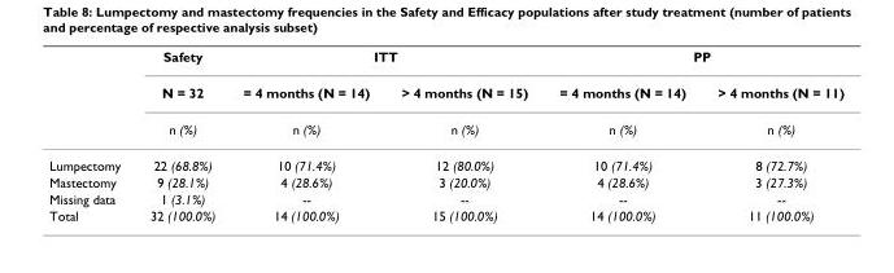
<table><thead><tr><td rowspan="3"></td><td rowspan="3">Safety N = 32 n (%)</td><td colspan="2">ITT</td><td colspan="2">PP</td></tr><tr><td rowspan="2">= 4 months (N = 14) n (%)</td><td rowspan="2">&gt; 4 months (N = 15) n (%)</td><td rowspan="2">= 4 months (N = 14) n (%)</td><td rowspan="2">&gt; 4 months (N = 11) n (%)</td></tr><tr></tr></thead><tbody><tr><td>Lumpectomy</td><td>22 (68.8%)</td><td>10 (71.4%)</td><td>12 (80.0%)</td><td>10 (71.4%)</td><td>8 (72.7%)</td></tr><tr><td>Mastectomy</td><td>9 (28.1%)</td><td>4 (28.6%)</td><td>3 (20.0%)</td><td>4 (28.6%)</td><td>3 (27.3%)</td></tr><tr><td>Missing data</td><td>1 (3.1%)</td><td>--</td><td>--</td><td>--</td><td>--</td></tr><tr><td>Total</td><td>32 (100.0%)</td><td>14 (100.0%)</td><td>15 (100.0%)</td><td>14 (100.0%)</td><td>11 (100.0%)</td></tr></tbody></table>